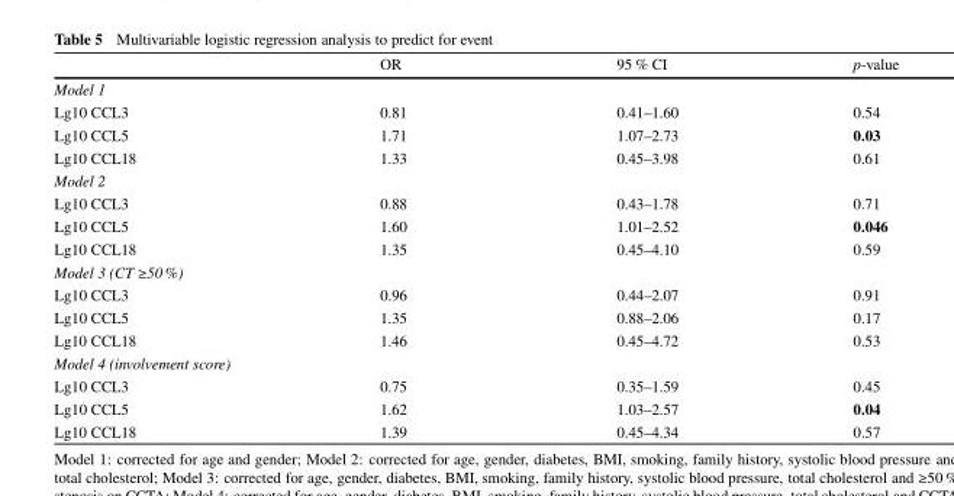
<table><thead><tr><td></td><td>OR</td><td>95 % CI</td><td>p-value</td></tr></thead><tbody><tr><td colspan="4">Model 1</td></tr><tr><td>Lg10 CCL3</td><td>0.81</td><td>0.41–1.60</td><td>0.54</td></tr><tr><td>Lg10 CCL5</td><td>1.71</td><td>1.07–2.73</td><td>0.03</td></tr><tr><td>Lg10 CCL18</td><td>1.33</td><td>0.45–3.98</td><td>0.61</td></tr><tr><td colspan="4">Model 2</td></tr><tr><td>Lg10 CCL3</td><td>0.88</td><td>0.43–1.78</td><td>0.71</td></tr><tr><td>Lg10 CCL5</td><td>1.60</td><td>1.01–2.52</td><td>0.046</td></tr><tr><td>Lg10 CCL18</td><td>1.35</td><td>0.45–4.10</td><td>0.59</td></tr><tr><td colspan="4">Model 3 (CT ≥50 %)</td></tr><tr><td>Lg10 CCL3</td><td>0.96</td><td>0.44–2.07</td><td>0.91</td></tr><tr><td>Lg10 CCL5</td><td>1.35</td><td>0.88–2.06</td><td>0.17</td></tr><tr><td>Lg10 CCL18</td><td>1.46</td><td>0.45–4.72</td><td>0.53</td></tr><tr><td colspan="4">Model 4 (involvement score)</td></tr><tr><td>Lg10 CCL3</td><td>0.75</td><td>0.35–1.59</td><td>0.45</td></tr><tr><td>Lg10 CCL5</td><td>1.62</td><td>1.03–2.57</td><td>0.04</td></tr><tr><td>Lg10 CCL18</td><td>1.39</td><td>0.45–4.34</td><td>0.57</td></tr></tbody></table>